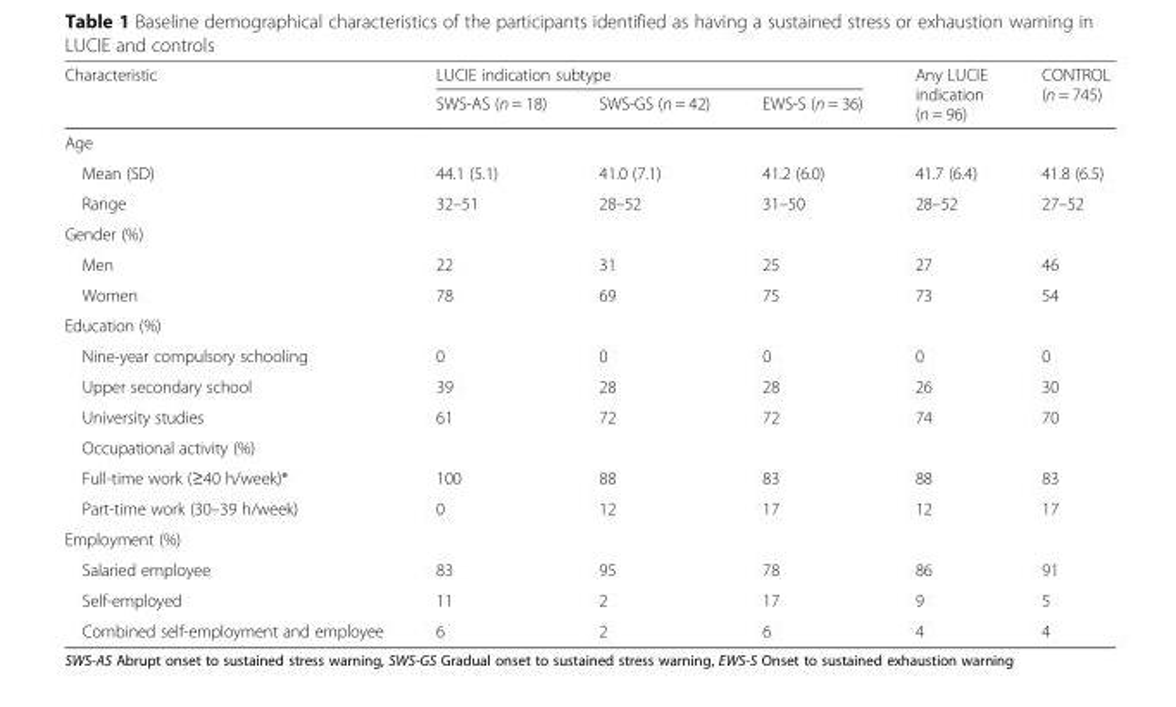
<table><thead><tr><td rowspan="2">Characteristic</td><td colspan="3">LUCIE indication subtype</td><td rowspan="2">Any LUCIE indication (n = 96)</td><td rowspan="2">CONTROL (n = 745)</td></tr><tr><td>SWS-AS (n = 18)</td><td>SWS-GS (n = 42)</td><td>EWS-S (n = 36)</td></tr></thead><tbody><tr><td colspan="6">Age</td></tr><tr><td>Mean (SD)</td><td>44.1 (5.1)</td><td>41.0 (7.1)</td><td>41.2 (6.0)</td><td>41.7 (6.4)</td><td>41.8 (6.5)</td></tr><tr><td>Range</td><td>32–51</td><td>28–52</td><td>31–50</td><td>28–52</td><td>27–52</td></tr><tr><td colspan="6">Gender (%)</td></tr><tr><td>Men</td><td>22</td><td>31</td><td>25</td><td>27</td><td>46</td></tr><tr><td>Women</td><td>78</td><td>69</td><td>75</td><td>73</td><td>54</td></tr><tr><td colspan="6">Education (%)</td></tr><tr><td>Nine-year compulsory schooling</td><td>0</td><td>0</td><td>0</td><td>0</td><td>0</td></tr><tr><td>Upper secondary school</td><td>39</td><td>28</td><td>28</td><td>26</td><td>30</td></tr><tr><td>University studies</td><td>61</td><td>72</td><td>72</td><td>74</td><td>70</td></tr><tr><td colspan="6">Occupational activity (%)</td></tr><tr><td>Full-time work (≥40 h/week)*</td><td>100</td><td>88</td><td>83</td><td>88</td><td>83</td></tr><tr><td>Part-time work (30–39 h/week)</td><td>0</td><td>12</td><td>17</td><td>12</td><td>17</td></tr><tr><td colspan="6">Employment (%)</td></tr><tr><td>Salaried employee</td><td>83</td><td>95</td><td>78</td><td>86</td><td>91</td></tr><tr><td>Self-employed</td><td>11</td><td>2</td><td>17</td><td>9</td><td>5</td></tr><tr><td>Combined self-employment and employee</td><td>6</td><td>2</td><td>6</td><td>4</td><td>4</td></tr></tbody></table>